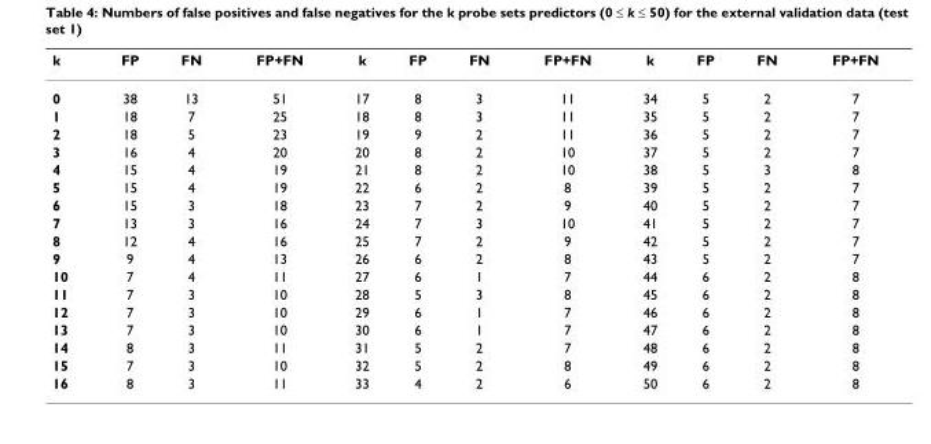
<table><thead><tr><td>k</td><td>FP</td><td>FN</td><td>FP+FN</td><td>k</td><td>FP</td><td>FN</td><td>FP+FN</td><td>k</td><td>FP</td><td>FN</td><td>FP+FN</td></tr></thead><tbody><tr><td>0</td><td>38</td><td>13</td><td>51</td><td>17</td><td>8</td><td>3</td><td>11</td><td>34</td><td>5</td><td>2</td><td>7</td></tr><tr><td>1</td><td>18</td><td>7</td><td>25</td><td>18</td><td>8</td><td>3</td><td>11</td><td>35</td><td>5</td><td>2</td><td>7</td></tr><tr><td>2</td><td>18</td><td>5</td><td>23</td><td>19</td><td>9</td><td>2</td><td>11</td><td>36</td><td>5</td><td>2</td><td>7</td></tr><tr><td>3</td><td>16</td><td>4</td><td>20</td><td>20</td><td>8</td><td>2</td><td>10</td><td>37</td><td>5</td><td>2</td><td>7</td></tr><tr><td>4</td><td>15</td><td>4</td><td>19</td><td>21</td><td>8</td><td>2</td><td>10</td><td>38</td><td>5</td><td>3</td><td>8</td></tr><tr><td>5</td><td>15</td><td>4</td><td>19</td><td>22</td><td>6</td><td>2</td><td>8</td><td>39</td><td>5</td><td>2</td><td>7</td></tr><tr><td>6</td><td>15</td><td>3</td><td>18</td><td>23</td><td>7</td><td>2</td><td>9</td><td>40</td><td>5</td><td>2</td><td>7</td></tr><tr><td>7</td><td>13</td><td>3</td><td>16</td><td>24</td><td>7</td><td>3</td><td>10</td><td>41</td><td>5</td><td>2</td><td>7</td></tr><tr><td>8</td><td>12</td><td>4</td><td>16</td><td>25</td><td>7</td><td>2</td><td>9</td><td>42</td><td>5</td><td>2</td><td>7</td></tr><tr><td>9</td><td>9</td><td>4</td><td>13</td><td>26</td><td>6</td><td>2</td><td>8</td><td>43</td><td>5</td><td>2</td><td>7</td></tr><tr><td>10</td><td>7</td><td>4</td><td>11</td><td>27</td><td>6</td><td>1</td><td>7</td><td>44</td><td>6</td><td>2</td><td>8</td></tr><tr><td>11</td><td>7</td><td>3</td><td>10</td><td>28</td><td>5</td><td>3</td><td>8</td><td>45</td><td>6</td><td>2</td><td>8</td></tr><tr><td>12</td><td>7</td><td>3</td><td>10</td><td>29</td><td>6</td><td>1</td><td>7</td><td>46</td><td>6</td><td>2</td><td>8</td></tr><tr><td>13</td><td>7</td><td>3</td><td>10</td><td>30</td><td>6</td><td>1</td><td>7</td><td>47</td><td>6</td><td>2</td><td>8</td></tr><tr><td>14</td><td>8</td><td>3</td><td>11</td><td>31</td><td>5</td><td>2</td><td>7</td><td>48</td><td>6</td><td>2</td><td>8</td></tr><tr><td>15</td><td>7</td><td>3</td><td>10</td><td>32</td><td>5</td><td>2</td><td>8</td><td>49</td><td>6</td><td>2</td><td>8</td></tr><tr><td>16</td><td>8</td><td>3</td><td>11</td><td>33</td><td>4</td><td>2</td><td>6</td><td>50</td><td>6</td><td>2</td><td>8</td></tr></tbody></table>